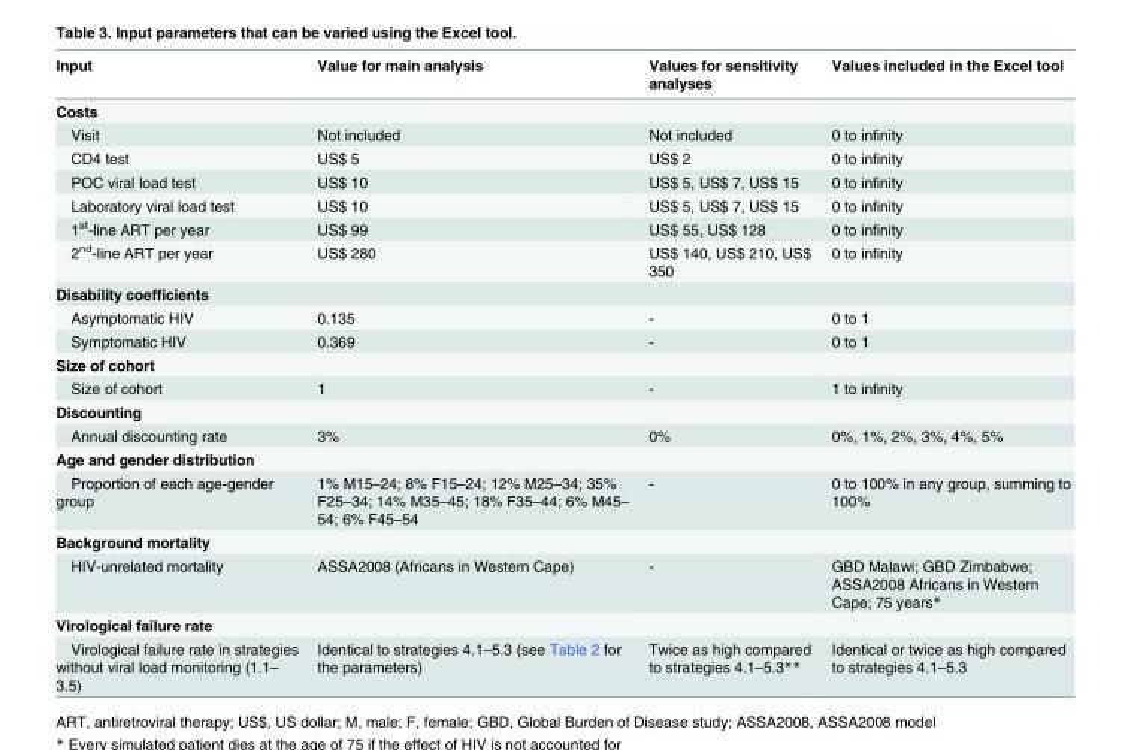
<table><thead><tr><td>Input</td><td>Value for main analysis</td><td>Values for sensitivity analyses</td><td>Values included in the Excel tool</td></tr></thead><tbody><tr><td colspan="4">Costs</td></tr><tr><td>Visit</td><td>Not included</td><td>Not included</td><td>0 to infinity</td></tr><tr><td>CD4 test</td><td>US$ 5</td><td>US$ 2</td><td>0 to infinity</td></tr><tr><td>POC viral load test</td><td>US$ 10</td><td>US$ 5, US$ 7, US$ 15</td><td>0 to infinity</td></tr><tr><td>Laboratory viral load test</td><td>US$ 10</td><td>US$ 5, US$ 7, US$ 15</td><td>0 to infinity</td></tr><tr><td>1<sup>st</sup>-line ART per year</td><td>US$ 99</td><td>US$ 55, US$ 128</td><td>0 to infinity</td></tr><tr><td>2<sup>nd</sup>-line ART per year</td><td>US$ 280</td><td>US$ 140, US$ 210, US$ 350</td><td>0 to infinity</td></tr><tr><td colspan="4">Disability coefficients</td></tr><tr><td>Asymptomatic HIV</td><td>0.135</td><td>-</td><td>0 to 1</td></tr><tr><td>Symptomatic HIV</td><td>0.369</td><td>-</td><td>0 to 1</td></tr><tr><td colspan="4">Size of cohort</td></tr><tr><td>Size of cohort</td><td>1</td><td>-</td><td>1 to infinity</td></tr><tr><td colspan="4">Discounting</td></tr><tr><td>Annual discounting rate</td><td>3%</td><td>0%</td><td>0%, 1%, 2%, 3%, 4%, 5%</td></tr><tr><td colspan="4">Age and gender distribution</td></tr><tr><td>Proportion of each age-gender group</td><td>1% M15–24; 8% F15–24; 12% M25–34; 35% F25–34; 14% M35–45; 18% F35–44; 6% M45– 54; 6% F45–54</td><td>-</td><td>0 to 100% in any group, summing to 100%</td></tr><tr><td colspan="4">Background mortality</td></tr><tr><td>HIV-unrelated mortality</td><td>ASSA2008 (Africans in Western Cape)</td><td>-</td><td>GBD Malawi; GBD Zimbabwe; ASSA2008 Africans in Western Cape; 75 years*</td></tr><tr><td colspan="4">Virological failure rate</td></tr><tr><td>Virological failure rate in strategies without viral load monitoring (1.1– 3.5)</td><td>Identical to strategies 4.1–5.3 (see Table 2 for the parameters)</td><td>Twice as high compared to strategies 4.1–5.3**</td><td>Identical or twice as high compared to strategies 4.1–5.3</td></tr></tbody></table>